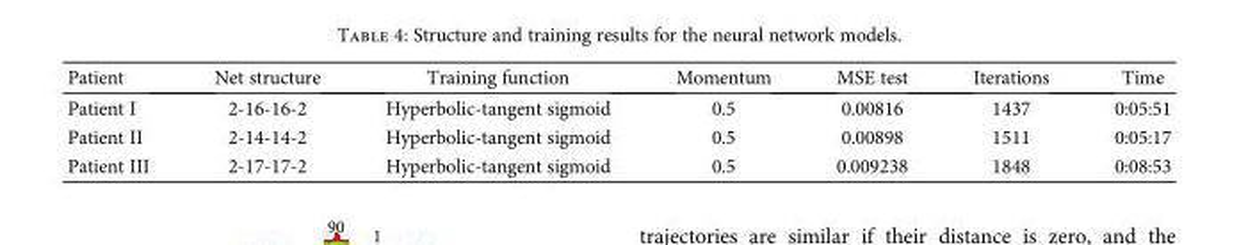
<table><thead><tr><td>Patient</td><td>Net structure</td><td>Training function</td><td>Momentum</td><td>MSE test</td><td>Iterations</td><td>Time</td></tr></thead><tbody><tr><td>Patient I</td><td>2-16-16-2</td><td>Hyperbolic-tangent sigmoid</td><td>0.5</td><td>0.00816</td><td>1437</td><td>0:05:51</td></tr><tr><td>Patient II</td><td>2-14-14-2</td><td>Hyperbolic-tangent sigmoid</td><td>0.5</td><td>0.00898</td><td>1511</td><td>0:05:17</td></tr><tr><td>Patient III</td><td>2-17-17-2</td><td>Hyperbolic-tangent sigmoid</td><td>0.5</td><td>0.009238</td><td>1848</td><td>0:08:53</td></tr></tbody></table>